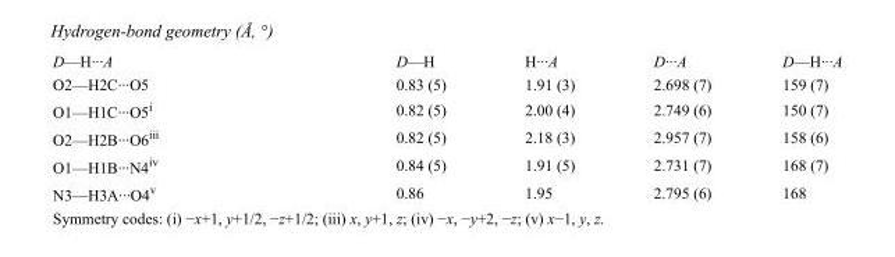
<table><tbody><tr><td>D—H···A</td><td>D—H</td><td>H···A</td><td>D···A</td><td>D—H···A</td></tr><tr><td>O2—H2C···O5</td><td>0.83 (5)</td><td>1.91 (3)</td><td>2.698 (7)</td><td>159 (7)</td></tr><tr><td>O1—H1C···O5<sup>i</sup></td><td>0.82 (5)</td><td>2.00 (4)</td><td>2.749 (6)</td><td>150 (7)</td></tr><tr><td>O2—H2B···O6<sup>iii</sup></td><td>0.82 (5)</td><td>2.18 (3)</td><td>2.957 (7)</td><td>158 (6)</td></tr><tr><td>O1—H1B···N4<sup>iv</sup></td><td>0.84 (5)</td><td>1.91 (5)</td><td>2.731 (7)</td><td>168 (7)</td></tr><tr><td>N3—H3A···O4<sup>v</sup></td><td>0.86</td><td>1.95</td><td>2.795 (6)</td><td>168</td></tr></tbody></table>